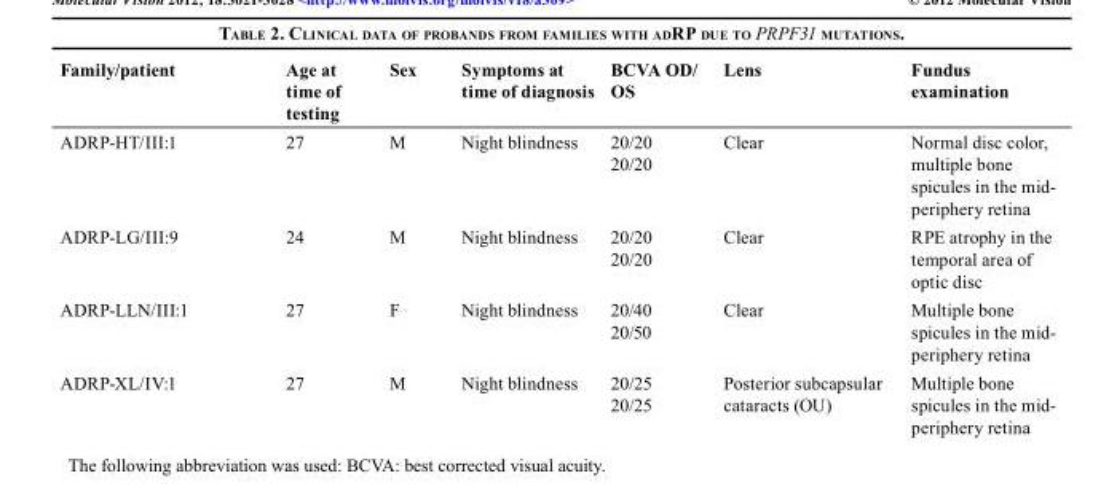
<table><thead><tr><td>Family/patient</td><td>Age at time of testing</td><td>Sex</td><td>Symptoms at time of diagnosis</td><td>BCVA OD/ OS</td><td>Lens</td><td>Fundus examination</td></tr></thead><tbody><tr><td>ADRP-HT/III:1</td><td>27</td><td>M</td><td>Night blindness</td><td>20/20 20/20</td><td>Clear</td><td>Normal disc color, multiple bone spicules in the mid- periphery retina</td></tr><tr><td>ADRP-LG/III:9</td><td>24</td><td>M</td><td>Night blindness</td><td>20/20 20/20</td><td>Clear</td><td>RPE atrophy in the temporal area of optic disc</td></tr><tr><td>ADRP-LLN/III:1</td><td>27</td><td>F</td><td>Night blindness</td><td>20/40 20/50</td><td>Clear</td><td>Multiple bone spicules in the mid- periphery retina</td></tr><tr><td>ADRP-XL/IV:1</td><td>27</td><td>M</td><td>Night blindness</td><td>20/25 20/25</td><td>Posterior subcapsular cataracts (OU)</td><td>Multiple bone spicules in the mid- periphery retina</td></tr></tbody></table>